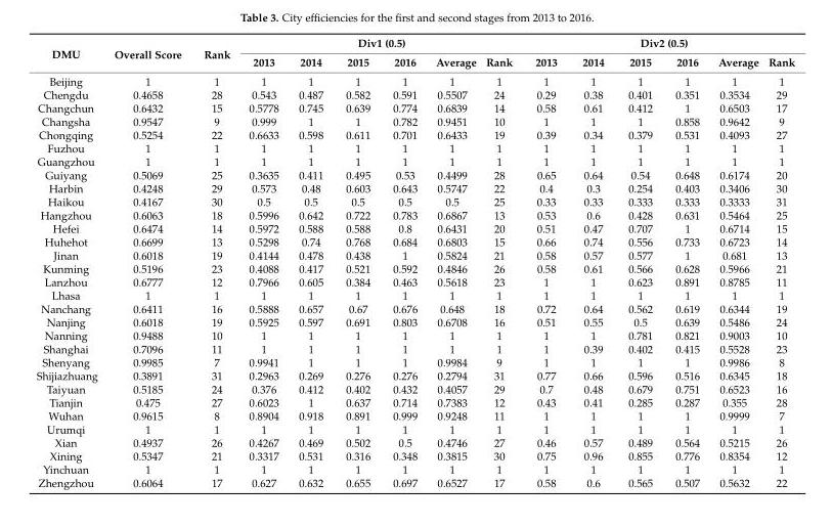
<table><thead><tr><td rowspan="2">DMU</td><td rowspan="2">Overall Score</td><td rowspan="2">Rank</td><td colspan="6">Div1 (0.5)</td><td colspan="6">Div2 (0.5)</td></tr><tr><td>2013</td><td>2014</td><td>2015</td><td>2016</td><td>Average</td><td>Rank</td><td>2013</td><td>2014</td><td>2015</td><td>2016</td><td>Average</td><td>Rank</td></tr></thead><tbody><tr><td>Beijing</td><td>1</td><td>1</td><td>1</td><td>1</td><td>1</td><td>1</td><td>1</td><td>1</td><td>1</td><td>1</td><td>1</td><td>1</td><td>1</td><td>1</td></tr><tr><td>Chengdu</td><td>0.4658</td><td>28</td><td>0.543</td><td>0.487</td><td>0.582</td><td>0.591</td><td>0.5507</td><td>24</td><td>0.29</td><td>0.38</td><td>0.401</td><td>0.351</td><td>0.3534</td><td>29</td></tr><tr><td>Changchun</td><td>0.6432</td><td>15</td><td>0.5778</td><td>0.745</td><td>0.639</td><td>0.774</td><td>0.6839</td><td>14</td><td>0.58</td><td>0.61</td><td>0.412</td><td>1</td><td>0.6503</td><td>17</td></tr><tr><td>Changsha</td><td>0.9547</td><td>9</td><td>0.999</td><td>1</td><td>1</td><td>0.782</td><td>0.9451</td><td>10</td><td>1</td><td>1</td><td>1</td><td>0.858</td><td>0.9642</td><td>9</td></tr><tr><td>Chongqing</td><td>0.5254</td><td>22</td><td>0.6633</td><td>0.598</td><td>0.611</td><td>0.701</td><td>0.6433</td><td>19</td><td>0.39</td><td>0.34</td><td>0.379</td><td>0.531</td><td>0.4093</td><td>27</td></tr><tr><td>Fuzhou</td><td>1</td><td>1</td><td>1</td><td>1</td><td>1</td><td>1</td><td>1</td><td>1</td><td>1</td><td>1</td><td>1</td><td>1</td><td>1</td><td>1</td></tr><tr><td>Guangzhou</td><td>1</td><td>1</td><td>1</td><td>1</td><td>1</td><td>1</td><td>1</td><td>1</td><td>1</td><td>1</td><td>1</td><td>1</td><td>1</td><td>1</td></tr><tr><td>Guiyang</td><td>0.5069</td><td>25</td><td>0.3635</td><td>0.411</td><td>0.495</td><td>0.53</td><td>0.4499</td><td>28</td><td>0.65</td><td>0.64</td><td>0.54</td><td>0.648</td><td>0.6174</td><td>20</td></tr><tr><td>Harbin</td><td>0.4248</td><td>29</td><td>0.573</td><td>0.48</td><td>0.603</td><td>0.643</td><td>0.5747</td><td>22</td><td>0.4</td><td>0.3</td><td>0.254</td><td>0.403</td><td>0.3406</td><td>30</td></tr><tr><td>Haikou</td><td>0.4167</td><td>30</td><td>0.5</td><td>0.5</td><td>0.5</td><td>0.5</td><td>0.5</td><td>25</td><td>0.33</td><td>0.33</td><td>0.333</td><td>0.333</td><td>0.3333</td><td>31</td></tr><tr><td>Hangzhou</td><td>0.6063</td><td>18</td><td>0.5996</td><td>0.642</td><td>0.722</td><td>0.783</td><td>0.6867</td><td>13</td><td>0.53</td><td>0.6</td><td>0.428</td><td>0.631</td><td>0.5464</td><td>25</td></tr><tr><td>Hefei</td><td>0.6474</td><td>14</td><td>0.5972</td><td>0.588</td><td>0.588</td><td>0.8</td><td>0.6431</td><td>20</td><td>0.51</td><td>0.47</td><td>0.707</td><td>1</td><td>0.6714</td><td>15</td></tr><tr><td>Huhehot</td><td>0.6699</td><td>13</td><td>0.5298</td><td>0.74</td><td>0.768</td><td>0.684</td><td>0.6803</td><td>15</td><td>0.66</td><td>0.74</td><td>0.556</td><td>0.733</td><td>0.6723</td><td>14</td></tr><tr><td>Jinan</td><td>0.6018</td><td>19</td><td>0.4144</td><td>0.478</td><td>0.438</td><td>1</td><td>0.5824</td><td>21</td><td>0.58</td><td>0.57</td><td>0.577</td><td>1</td><td>0.681</td><td>13</td></tr><tr><td>Kunming</td><td>0.5196</td><td>23</td><td>0.4088</td><td>0.417</td><td>0.521</td><td>0.592</td><td>0.4846</td><td>26</td><td>0.58</td><td>0.61</td><td>0.566</td><td>0.628</td><td>0.5966</td><td>21</td></tr><tr><td>Lanzhou</td><td>0.6777</td><td>12</td><td>0.7966</td><td>0.605</td><td>0.384</td><td>0.463</td><td>0.5618</td><td>23</td><td>1</td><td>1</td><td>0.623</td><td>0.891</td><td>0.8785</td><td>11</td></tr><tr><td>Lhasa</td><td>1</td><td>1</td><td>1</td><td>1</td><td>1</td><td>1</td><td>1</td><td>1</td><td>1</td><td>1</td><td>1</td><td>1</td><td>1</td><td>1</td></tr><tr><td>Nanchang</td><td>0.6411</td><td>16</td><td>0.5888</td><td>0.657</td><td>0.67</td><td>0.676</td><td>0.648</td><td>18</td><td>0.72</td><td>0.64</td><td>0.562</td><td>0.619</td><td>0.6344</td><td>19</td></tr><tr><td>Nanjing</td><td>0.6018</td><td>19</td><td>0.5925</td><td>0.597</td><td>0.691</td><td>0.803</td><td>0.6708</td><td>16</td><td>0.51</td><td>0.55</td><td>0.5</td><td>0.639</td><td>0.5486</td><td>24</td></tr><tr><td>Nanning</td><td>0.9488</td><td>10</td><td>1</td><td>1</td><td>1</td><td>1</td><td>1</td><td>1</td><td>1</td><td>1</td><td>0.781</td><td>0.821</td><td>0.9003</td><td>10</td></tr><tr><td>Shanghai</td><td>0.7096</td><td>11</td><td>1</td><td>1</td><td>1</td><td>1</td><td>1</td><td>1</td><td>1</td><td>0.39</td><td>0.402</td><td>0.415</td><td>0.5528</td><td>23</td></tr><tr><td>Shenyang</td><td>0.9985</td><td>7</td><td>0.9941</td><td>1</td><td>1</td><td>1</td><td>0.9984</td><td>9</td><td>1</td><td>1</td><td>1</td><td>1</td><td>0.9986</td><td>8</td></tr><tr><td>Shijiazhuang</td><td>0.3891</td><td>31</td><td>0.2963</td><td>0.269</td><td>0.276</td><td>0.276</td><td>0.2794</td><td>31</td><td>0.77</td><td>0.66</td><td>0.596</td><td>0.516</td><td>0.6345</td><td>18</td></tr><tr><td>Taiyuan</td><td>0.5185</td><td>24</td><td>0.376</td><td>0.412</td><td>0.402</td><td>0.432</td><td>0.4057</td><td>29</td><td>0.7</td><td>0.48</td><td>0.679</td><td>0.751</td><td>0.6523</td><td>16</td></tr><tr><td>Tianjin</td><td>0.475</td><td>27</td><td>0.6023</td><td>1</td><td>0.637</td><td>0.714</td><td>0.7383</td><td>12</td><td>0.43</td><td>0.41</td><td>0.285</td><td>0.287</td><td>0.355</td><td>28</td></tr><tr><td>Wuhan</td><td>0.9615</td><td>8</td><td>0.8904</td><td>0.918</td><td>0.891</td><td>0.999</td><td>0.9248</td><td>11</td><td>1</td><td>1</td><td>1</td><td>1</td><td>0.9999</td><td>7</td></tr><tr><td>Urumqi</td><td>1</td><td>1</td><td>1</td><td>1</td><td>1</td><td>1</td><td>1</td><td>1</td><td>1</td><td>1</td><td>1</td><td>1</td><td>1</td><td>1</td></tr><tr><td>Xian</td><td>0.4937</td><td>26</td><td>0.4267</td><td>0.469</td><td>0.502</td><td>0.5</td><td>0.4746</td><td>27</td><td>0.46</td><td>0.57</td><td>0.489</td><td>0.564</td><td>0.5215</td><td>26</td></tr><tr><td>Xining</td><td>0.5347</td><td>21</td><td>0.3317</td><td>0.531</td><td>0.316</td><td>0.348</td><td>0.3815</td><td>30</td><td>0.75</td><td>0.96</td><td>0.855</td><td>0.776</td><td>0.8354</td><td>12</td></tr><tr><td>Yinchuan</td><td>1</td><td>1</td><td>1</td><td>1</td><td>1</td><td>1</td><td>1</td><td>1</td><td>1</td><td>1</td><td>1</td><td>1</td><td>1</td><td>1</td></tr><tr><td>Zhengzhou</td><td>0.6064</td><td>17</td><td>0.627</td><td>0.632</td><td>0.655</td><td>0.697</td><td>0.6527</td><td>17</td><td>0.58</td><td>0.6</td><td>0.565</td><td>0.507</td><td>0.5632</td><td>22</td></tr></tbody></table>